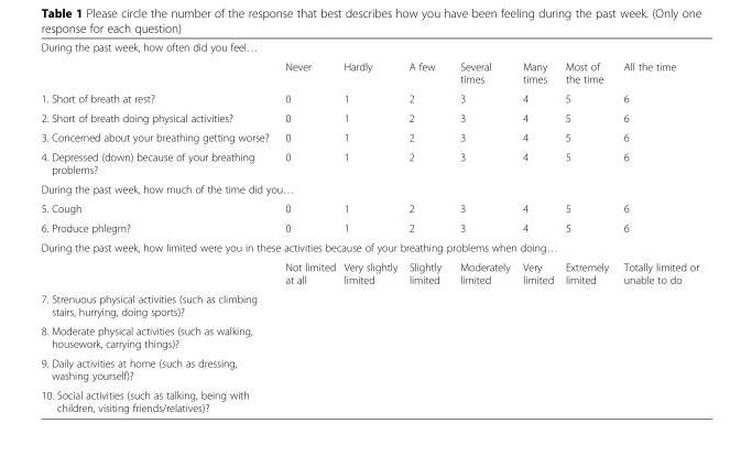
<table><tbody><tr><td colspan="8">During the past week, how often did you feel…</td></tr><tr><td></td><td>Never</td><td>Hardly</td><td>A few</td><td>Several times</td><td>Many times</td><td>Most of the time</td><td>All the time</td></tr><tr><td>1. Short of breath at rest?</td><td>0</td><td>1</td><td>2</td><td>3</td><td>4</td><td>5</td><td>6</td></tr><tr><td>2. Short of breath doing physical activities?</td><td>0</td><td>1</td><td>2</td><td>3</td><td>4</td><td>5</td><td>6</td></tr><tr><td>3. Concerned about your breathing getting worse?</td><td>0</td><td>1</td><td>2</td><td>3</td><td>4</td><td>5</td><td>6</td></tr><tr><td>4. Depressed (down) because of your breathing problems?</td><td>0</td><td>1</td><td>2</td><td>3</td><td>4</td><td>5</td><td>6</td></tr><tr><td colspan="8">During the past week, how much of the time did you…</td></tr><tr><td>5. Cough</td><td>0</td><td>1</td><td>2</td><td>3</td><td>4</td><td>5</td><td>6</td></tr><tr><td>6. Produce phlegm?</td><td>0</td><td>1</td><td>2</td><td>3</td><td>4</td><td>5</td><td>6</td></tr><tr><td colspan="8">During the past week, how limited were you in these activities because of your breathing problems when doing…</td></tr><tr><td></td><td>Not limited at all</td><td>Very slightly limited</td><td>Slightly limited</td><td>Moderately limited</td><td>Very limited</td><td>Extremely limited</td><td>Totally limited or unable to do</td></tr><tr><td colspan="8">7. Strenuous physical activities (such as climbing stairs, hurrying, doing sports)?</td></tr><tr><td colspan="8">8. Moderate physical activities (such as walking, housework, carrying things)?</td></tr><tr><td colspan="8">9. Daily activities at home (such as dressing, washing yourself)?</td></tr><tr><td>10. Social activities (such as talking, being with children, visiting friends/relatives)?</td><td></td><td></td><td></td><td></td><td></td><td></td><td></td></tr></tbody></table>